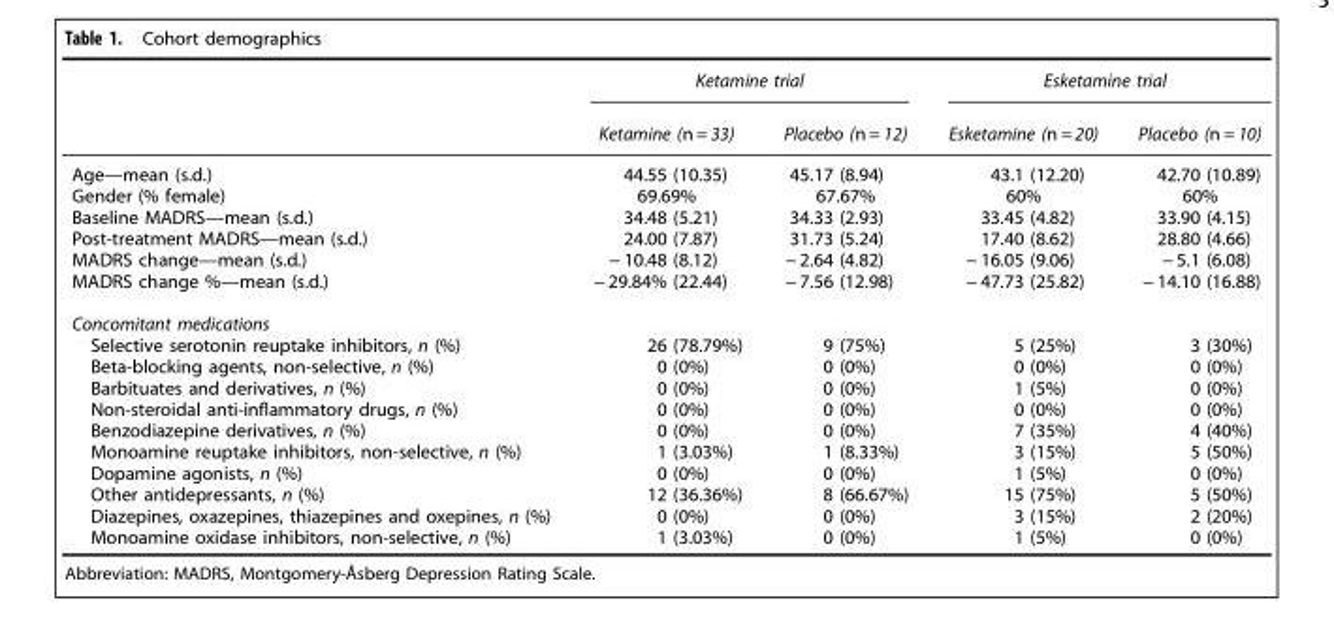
<table><thead><tr><td rowspan="2"></td><td colspan="2">Ketamine trial</td><td colspan="2">Esketamine trial</td></tr><tr><td>Ketamine (n = 33)</td><td>Placebo (n = 12)</td><td>Esketamine (n = 20)</td><td>Placebo (n = 10)</td></tr></thead><tbody><tr><td>Age—mean (s.d.)</td><td>44.55 (10.35)</td><td>45.17 (8.94)</td><td>43.1 (12.20)</td><td>42.70 (10.89)</td></tr><tr><td>Gender (% female)</td><td>69.69%</td><td>67.67%</td><td>60%</td><td>60%</td></tr><tr><td>Baseline MADRS—mean (s.d.)</td><td>34.48 (5.21)</td><td>34.33 (2.93)</td><td>33.45 (4.82)</td><td>33.90 (4.15)</td></tr><tr><td>Post-treatment MADRS—mean (s.d.)</td><td>24.00 (7.87)</td><td>31.73 (5.24)</td><td>17.40 (8.62)</td><td>28.80 (4.66)</td></tr><tr><td>MADRS change—mean (s.d.)</td><td>− 10.48 (8.12)</td><td>− 2.64 (4.82)</td><td>− 16.05 (9.06)</td><td>− 5.1 (6.08)</td></tr><tr><td>MADRS change %—mean (s.d.)</td><td>− 29.84% (22.44)</td><td>− 7.56 (12.98)</td><td>− 47.73 (25.82)</td><td>− 14.10 (16.88)</td></tr><tr><td colspan="5">Concomitant medications</td></tr><tr><td>Selective serotonin reuptake inhibitors, n (%)</td><td>26 (78.79%)</td><td>9 (75%)</td><td>5 (25%)</td><td>3 (30%)</td></tr><tr><td>Beta-blocking agents, non-selective, n (%)</td><td>0 (0%)</td><td>0 (0%)</td><td>0 (0%)</td><td>0 (0%)</td></tr><tr><td>Barbituates and derivatives, n (%)</td><td>0 (0%)</td><td>0 (0%)</td><td>1 (5%)</td><td>0 (0%)</td></tr><tr><td>Non-steroidal anti-inflammatory drugs, n (%)</td><td>0 (0%)</td><td>0 (0%)</td><td>0 (0%)</td><td>0 (0%)</td></tr><tr><td>Benzodiazepine derivatives, n (%)</td><td>0 (0%)</td><td>0 (0%)</td><td>7 (35%)</td><td>4 (40%)</td></tr><tr><td>Monoamine reuptake inhibitors, non-selective, n (%)</td><td>1 (3.03%)</td><td>1 (8.33%)</td><td>3 (15%)</td><td>5 (50%)</td></tr><tr><td>Dopamine agonists, n (%)</td><td>0 (0%)</td><td>0 (0%)</td><td>1 (5%)</td><td>0 (0%)</td></tr><tr><td>Other antidepressants, n (%)</td><td>12 (36.36%)</td><td>8 (66.67%)</td><td>15 (75%)</td><td>5 (50%)</td></tr><tr><td>Diazepines, oxazepines, thiazepines and oxepines, n (%)</td><td>0 (0%)</td><td>0 (0%)</td><td>3 (15%)</td><td>2 (20%)</td></tr><tr><td>Monoamine oxidase inhibitors, non-selective, n (%)</td><td>1 (3.03%)</td><td>0 (0%)</td><td>1 (5%)</td><td>0 (0%)</td></tr></tbody></table>